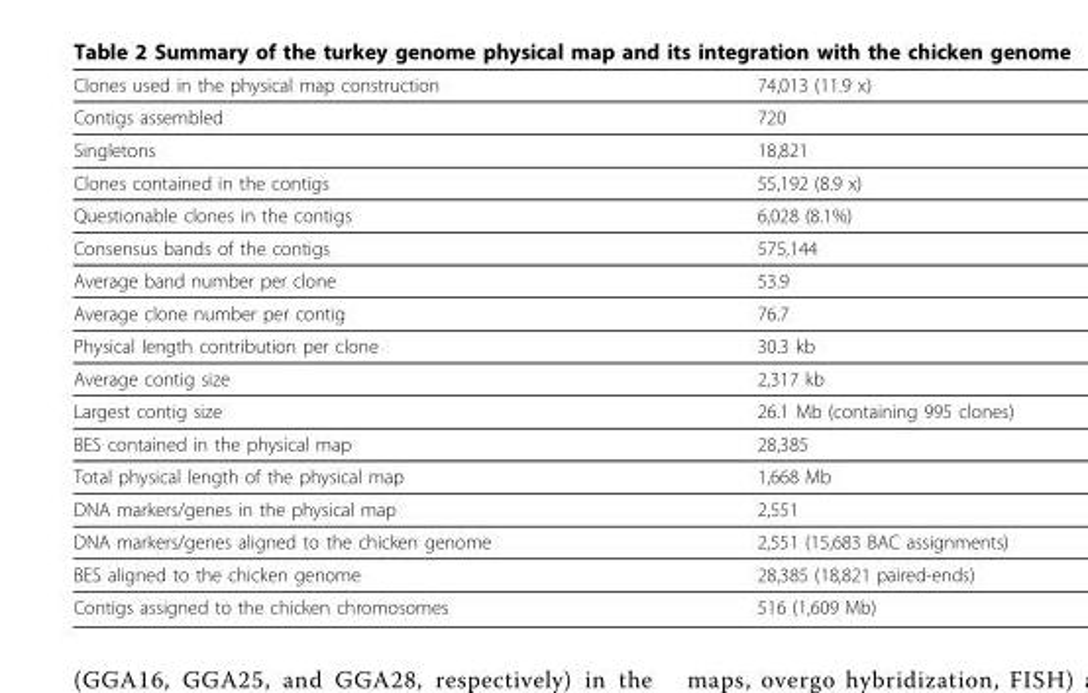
<table><thead><tr><td>Clones used in the physical map construction</td><td>74,013 (11.9 x)</td></tr></thead><tbody><tr><td>Contigs assembled</td><td>720</td></tr><tr><td>Singletons</td><td>18,821</td></tr><tr><td>Clones contained in the contigs</td><td>55,192 (8.9 x)</td></tr><tr><td>Questionable clones in the contigs</td><td>6,028 (8.1%)</td></tr><tr><td>Consensus bands of the contigs</td><td>575,144</td></tr><tr><td>Average band number per clone</td><td>53.9</td></tr><tr><td>Average clone number per contig</td><td>76.7</td></tr><tr><td>Physical length contribution per clone</td><td>30.3 kb</td></tr><tr><td>Average contig size</td><td>2,317 kb</td></tr><tr><td>Largest contig size</td><td>26.1 Mb (containing 995 clones)</td></tr><tr><td>BES contained in the physical map</td><td>28,385</td></tr><tr><td>Total physical length of the physical map</td><td>1,668 Mb</td></tr><tr><td>DNA markers/genes in the physical map</td><td>2,551</td></tr><tr><td>DNA markers/genes aligned to the chicken genome</td><td>2,551 (15,683 BAC assignments)</td></tr><tr><td>BES aligned to the chicken genome</td><td>28,385 (18,821 paired-ends)</td></tr><tr><td>Contigs assigned to the chicken chromosomes</td><td>516 (1,609 Mb)</td></tr></tbody></table>